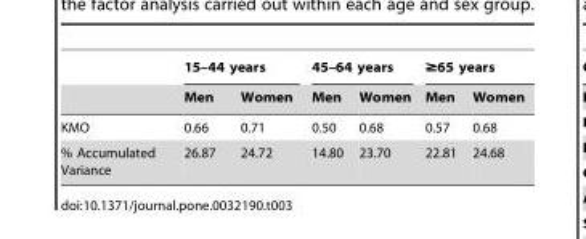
<table><thead><tr><td rowspan="2"></td><td colspan="2">15–44 years</td><td colspan="2">45–64 years</td><td colspan="2">≥65 years</td></tr><tr><td>Men</td><td>Women</td><td>Men</td><td>Women</td><td>Men</td><td>Women</td></tr></thead><tbody><tr><td>KMO</td><td>0.66</td><td>0.71</td><td>0.50</td><td>0.68</td><td>0.57</td><td>0.68</td></tr><tr><td>% Accumulated Variance</td><td>26.87</td><td>24.72</td><td>14.80</td><td>23.70</td><td>22.81</td><td>24.68</td></tr></tbody></table>